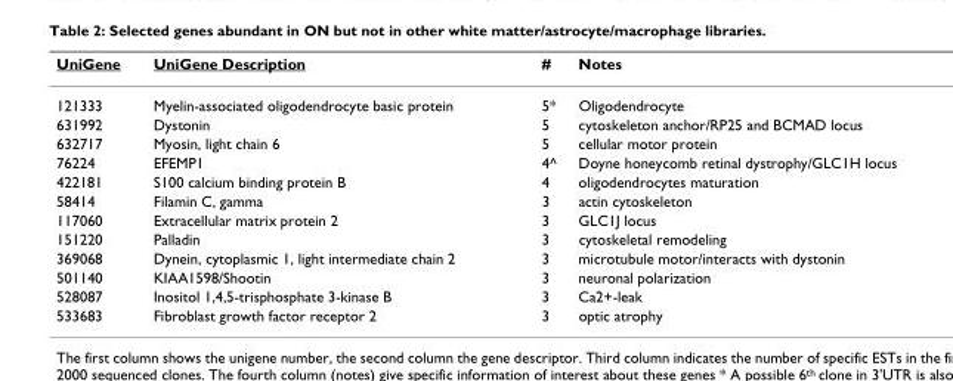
<table><thead><tr><td>UniGene</td><td>UniGene Description</td><td>#</td><td>Notes</td></tr></thead><tbody><tr><td>121333</td><td>Myelin-associated oligodendrocyte basic protein</td><td>5*</td><td>Oligodendrocyte</td></tr><tr><td>631992</td><td>Dystonin</td><td>5</td><td>cytoskeleton anchor/RP25 and BCMAD locus</td></tr><tr><td>632717</td><td>Myosin, light chain 6</td><td>5</td><td>cellular motor protein</td></tr><tr><td>76224</td><td>EFEMP1</td><td>4^</td><td>Doyne honeycomb retinal dystrophy/GLC1H locus</td></tr><tr><td>422181</td><td>S100 calcium binding protein B</td><td>4</td><td>oligodendrocytes maturation</td></tr><tr><td>58414</td><td>Filamin C, gamma</td><td>3</td><td>actin cytoskeleton</td></tr><tr><td>117060</td><td>Extracellular matrix protein 2</td><td>3</td><td>GLC1J locus</td></tr><tr><td>151220</td><td>Palladin</td><td>3</td><td>cytoskeletal remodeling</td></tr><tr><td>369068</td><td>Dynein, cytoplasmic 1, light intermediate chain 2</td><td>3</td><td>microtubule motor/interacts with dystonin</td></tr><tr><td>501140</td><td>KIAA1598/Shootin</td><td>3</td><td>neuronal polarization</td></tr><tr><td>528087</td><td>Inositol 1,4,5-trisphosphate 3-kinase B</td><td>3</td><td>Ca2+-leak</td></tr><tr><td>533683</td><td>Fibroblast growth factor receptor 2</td><td>3</td><td>optic atrophy</td></tr></tbody></table>